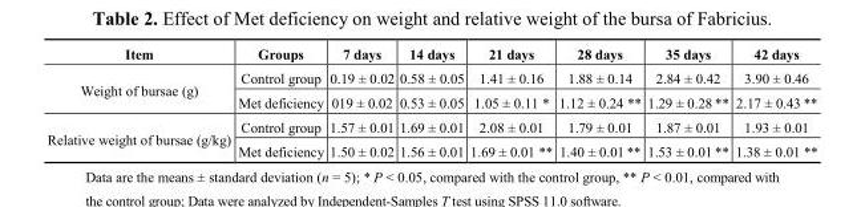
<table><thead><tr><td>Item</td><td>Groups</td><td>7 days</td><td>14 days</td><td>21 days</td><td>28 days</td><td>35 days</td><td>42 days</td></tr></thead><tbody><tr><td rowspan="2">Weight of bursae (g)</td><td>Control group</td><td>0.19 ± 0.02</td><td>0.58 ± 0.05</td><td>1.41 ± 0.16</td><td>1.88 ± 0.14</td><td>2.84 ± 0.42</td><td>3.90 ± 0.46</td></tr><tr><td>Met deficiency</td><td>019 ± 0.02</td><td>0.53 ± 0.05</td><td>1.05 ± 0.11 *</td><td>1.12 ± 0.24 **</td><td>1.29 ± 0.28 **</td><td>2.17 ± 0.43 **</td></tr><tr><td rowspan="2">Relative weight of bursae (g/kg)</td><td>Control group</td><td>1.57 ± 0.01</td><td>1.69 ± 0.01</td><td>2.08 ± 0.01</td><td>1.79 ± 0.01</td><td>1.87 ± 0.01</td><td>1.93 ± 0.01</td></tr><tr><td>Met deficiency</td><td>1.50 ± 0.02</td><td>1.56 ± 0.01</td><td>1.69 ± 0.01 **</td><td>1.40 ± 0.01 **</td><td>1.53 ± 0.01 **</td><td>1.38 ± 0.01 **</td></tr></tbody></table>